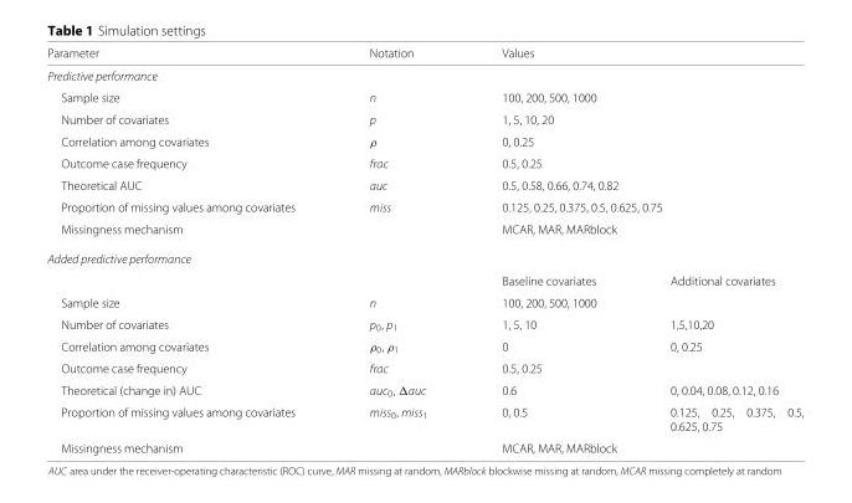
<table><thead><tr><td rowspan="2">Parameter Predictive performance</td><td rowspan="2">Notation</td><td colspan="2">Values</td></tr><tr><td></td><td></td></tr></thead><tbody><tr><td>Sample size</td><td>n</td><td colspan="2">100, 200, 500, 1000</td></tr><tr><td>Number of covariates</td><td>p</td><td colspan="2">1, 5, 10, 20</td></tr><tr><td>Correlation among covariates</td><td>ρ</td><td colspan="2">0, 0.25</td></tr><tr><td>Outcome case frequency</td><td>frac</td><td colspan="2">0.5, 0.25</td></tr><tr><td>Theoretical AUC</td><td>auc</td><td colspan="2">0.5, 0.58, 0.66, 0.74, 0.82</td></tr><tr><td>Proportion of missing values among covariates</td><td>miss</td><td colspan="2">0.125, 0.25, 0.375, 0.5, 0.625, 0.75</td></tr><tr><td>Missingness mechanism</td><td></td><td colspan="2">MCAR, MAR, MARblock</td></tr><tr><td colspan="4">Added predictive performance</td></tr><tr><td></td><td></td><td>Baseline covariates</td><td>Additional covariates</td></tr><tr><td>Sample size</td><td>n</td><td colspan="2">100, 200, 500, 1000</td></tr><tr><td>Number of covariates</td><td>p<sub>0</sub>, p<sub>1</sub></td><td>1, 5, 10</td><td>1,5,10,20</td></tr><tr><td>Correlation among covariates</td><td>ρ<sub>0</sub>, ρ<sub>1</sub></td><td>0</td><td>0, 0.25</td></tr><tr><td>Outcome case frequency</td><td>frac</td><td colspan="2">0.5, 0.25</td></tr><tr><td>Theoretical (change in) AUC</td><td>auc<sub>0</sub>, Δauc</td><td>0.6</td><td>0, 0.04, 0.08, 0.12, 0.16</td></tr><tr><td>Proportion of missing values among covariates</td><td>miss<sub>0</sub>, miss<sub>1</sub></td><td>0, 0.5</td><td>0.125, 0.25, 0.375, 0.5, 0.625, 0.75</td></tr><tr><td>Missingness mechanism</td><td></td><td colspan="2">MCAR, MAR, MARblock</td></tr></tbody></table>